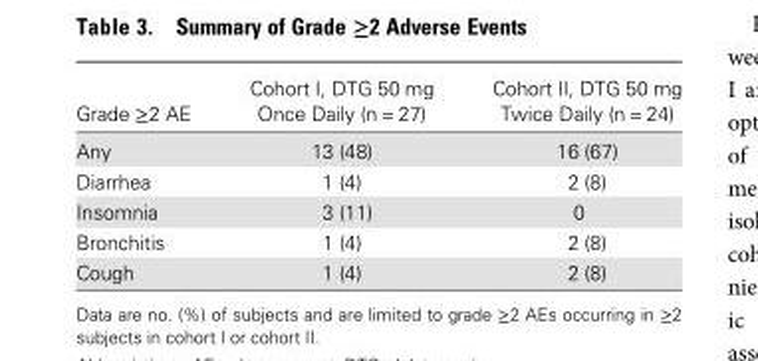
<table><thead><tr><td>Grade ≥2 AE</td><td>Cohort I, DTG 50 mg Once Daily (n = 27)</td><td>Cohort II, DTG 50 mg Twice Daily (n = 24)</td></tr></thead><tbody><tr><td>Any</td><td>13 (48)</td><td>16 (67)</td></tr><tr><td>Diarrhea</td><td>1 (4)</td><td>2 (8)</td></tr><tr><td>Insomnia</td><td>3 (11)</td><td>0</td></tr><tr><td>Bronchitis</td><td>1 (4)</td><td>2 (8)</td></tr><tr><td>Cough</td><td>1 (4)</td><td>2 (8)</td></tr></tbody></table>